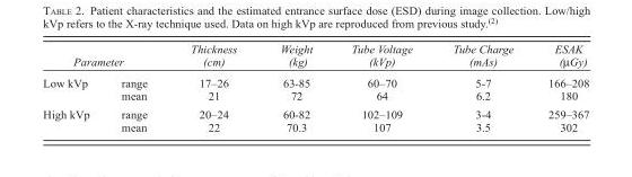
<table><thead><tr><td colspan="2">Parameter</td><td rowspan="2">Thickness (cm) 17–26</td><td rowspan="2">Weight (kg) 63-85</td><td rowspan="2">Tube Voltage (kVp) 60–70</td><td rowspan="2">Tube Charge (mAs) 5-7</td><td rowspan="2">ESAK (μGy) 166–208</td></tr><tr><td>Low kVp</td><td>range</td></tr></thead><tbody><tr><td></td><td>mean</td><td>21</td><td>72</td><td>64</td><td>6.2</td><td>180</td></tr><tr><td rowspan="2">High kVp</td><td>range</td><td>20–24</td><td>60-82</td><td>102–109</td><td>3-4</td><td>259–367</td></tr><tr><td>mean</td><td>22</td><td>70.3</td><td>107</td><td>3.5</td><td>302</td></tr></tbody></table>